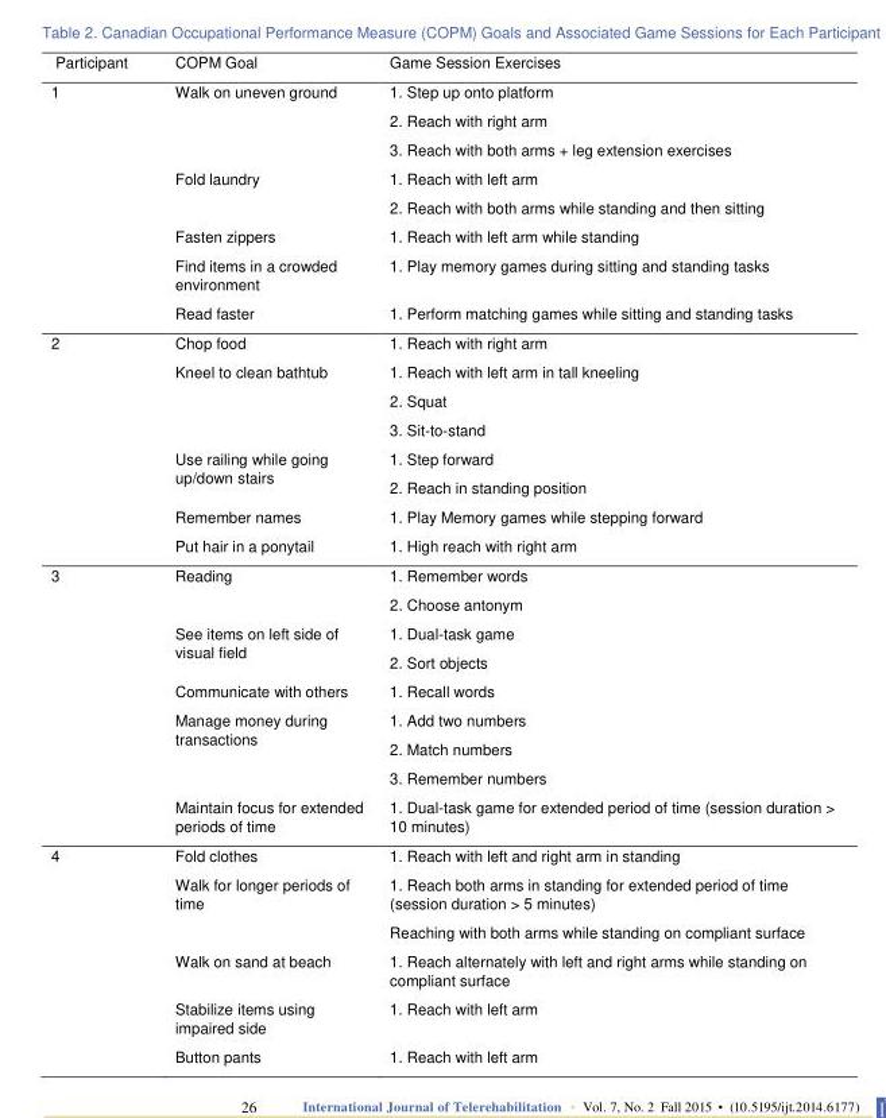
<table><thead><tr><td>Participant</td><td>COPM Goal</td><td>Game Session Exercises</td></tr></thead><tbody><tr><td rowspan="5">1</td><td>Walk on uneven ground</td><td>1. Step up onto platform 2. Reach with right arm 3. Reach with both arms + leg extension exercises</td></tr><tr><td>Fold laundry</td><td>1. Reach with left arm 2. Reach with both arms while standing and then sitting</td></tr><tr><td>Fasten zippers</td><td>1. Reach with left arm while standing</td></tr><tr><td>Find items in a crowded environment</td><td>1. Play memory games during sitting and standing tasks</td></tr><tr><td>Read faster</td><td>1. Perform matching games while sitting and standing tasks</td></tr><tr><td rowspan="5">2</td><td>Chop food</td><td>1. Reach with right arm</td></tr><tr><td>Kneel to clean bathtub</td><td>1. Reach with left arm in tall kneeling 2. Squat 3. Sit-to-stand</td></tr><tr><td>Use railing while going up/down stairs</td><td>1. Step forward 2. Reach in standing position</td></tr><tr><td>Remember names</td><td>1. Play Memory games while stepping forward</td></tr><tr><td>Put hair in a ponytail</td><td>1. High reach with right arm</td></tr><tr><td rowspan="5">3</td><td>Reading</td><td>1. Remember words 2. Choose antonym</td></tr><tr><td>See items on left side of visual field</td><td>1. Dual-task game 2. Sort objects</td></tr><tr><td>Communicate with others</td><td>1. Recall words</td></tr><tr><td>Manage money during transactions</td><td>1. Add two numbers 2. Match numbers 3. Remember numbers</td></tr><tr><td>Maintain focus for extended periods of time</td><td>1. Dual-task game for extended period of time (session duration &gt; 10 minutes)</td></tr><tr><td rowspan="5">4</td><td>Fold clothes</td><td>1. Reach with left and right arm in standing</td></tr><tr><td>Walk for longer periods of time</td><td>1. Reach both arms in standing for extended period of time (session duration &gt; 5 minutes) Reaching with both arms while standing on compliant surface</td></tr><tr><td>Walk on sand at beach</td><td>1. Reach alternately with left and right arms while standing on compliant surface</td></tr><tr><td>Stabilize items using impaired side</td><td>1. Reach with left arm</td></tr><tr><td>Button pants</td><td>1. Reach with left arm</td></tr></tbody></table>